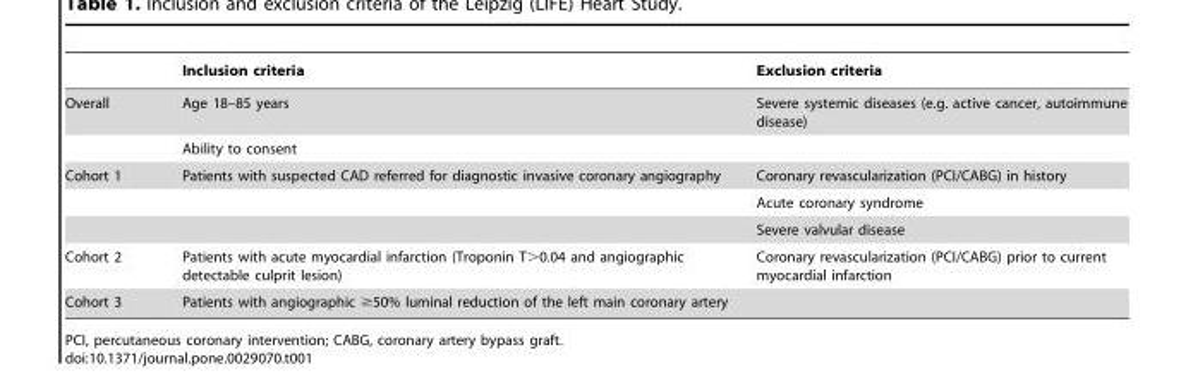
<table><thead><tr><td></td><td>Inclusion criteria</td><td>Exclusion criteria</td></tr></thead><tbody><tr><td rowspan="2">Overall</td><td>Age 18–85 years</td><td>Severe systemic diseases (e.g. active cancer, autoimmune disease)</td></tr><tr><td>Ability to consent</td><td></td></tr><tr><td rowspan="3">Cohort 1</td><td>Patients with suspected CAD referred for diagnostic invasive coronary angiography</td><td>Coronary revascularization (PCI/CABG) in history</td></tr><tr><td></td><td>Acute coronary syndrome</td></tr><tr><td></td><td>Severe valvular disease</td></tr><tr><td>Cohort 2</td><td>Patients with acute myocardial infarction (Troponin T&gt;0.04 and angiographic detectable culprit lesion)</td><td>Coronary revascularization (PCI/CABG) prior to current myocardial infarction</td></tr><tr><td>Cohort 3</td><td>Patients with angiographic ≥50% luminal reduction of the left main coronary artery</td><td></td></tr></tbody></table>